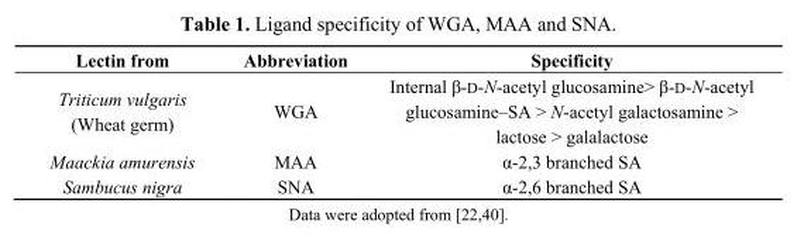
<table><thead><tr><td>Lectin from</td><td>Abbreviation</td><td>Specificity</td></tr></thead><tbody><tr><td>Triticum vulgaris (Wheat germ)</td><td>WGA</td><td>Internal β-D-N-acetyl glucosamine&gt; β-D-N-acetyl glucosamine–SA &gt; N-acetyl galactosamine &gt; lactose &gt; galalactose</td></tr><tr><td>Maackia amurensis</td><td>ΜΑΑ</td><td>α-2,3 branched SA</td></tr><tr><td>Sambucus nigra</td><td>SNA</td><td>α-2,6 branched SA</td></tr></tbody></table>